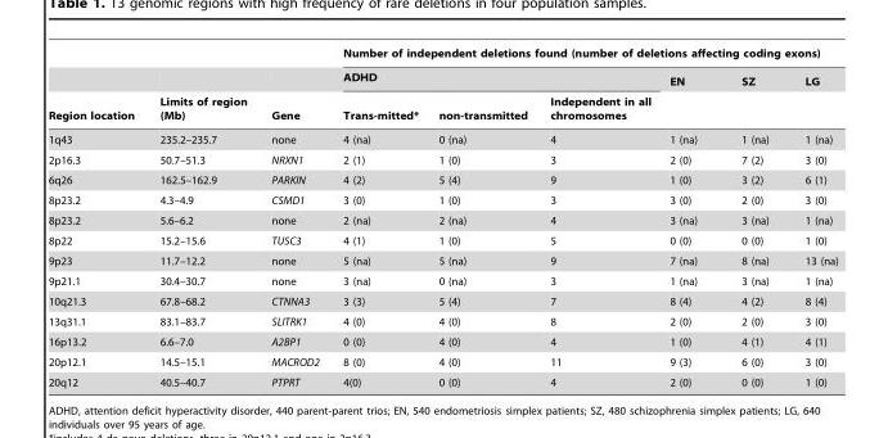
<table><thead><tr><td rowspan="3">Region location</td><td rowspan="3">Limits of region (Mb)</td><td rowspan="3">Gene</td><td colspan="6">Number of independent deletions found (number of deletions affecting coding exons)</td></tr><tr><td colspan="3">ADHD</td><td rowspan="2">EN</td><td rowspan="2">SZ</td><td rowspan="2">LG</td></tr><tr><td>Trans-mitted*</td><td>non-transmitted</td><td>Independent in all chromosomes</td></tr></thead><tbody><tr><td>1q43</td><td>235.2–235.7</td><td>none</td><td>4 (na)</td><td>0 (na)</td><td>4</td><td>1 (na)</td><td>1 (na)</td><td>1 (na)</td></tr><tr><td>2p16.3</td><td>50.7–51.3</td><td>NRXN1</td><td>2 (1)</td><td>1 (0)</td><td>3</td><td>2 (0)</td><td>7 (2)</td><td>3 (0)</td></tr><tr><td>6q26</td><td>162.5–162.9</td><td>PARKIN</td><td>4 (2)</td><td>5 (4)</td><td>9</td><td>1 (0)</td><td>3 (2)</td><td>6 (1)</td></tr><tr><td>8p23.2</td><td>4.3–4.9</td><td>CSMD1</td><td>3 (0)</td><td>1 (0)</td><td>3</td><td>3 (0)</td><td>2 (0)</td><td>3 (0)</td></tr><tr><td>8p23.2</td><td>5.6–6.2</td><td>none</td><td>2 (na)</td><td>2 (na)</td><td>4</td><td>3 (na)</td><td>3 (na)</td><td>1 (na)</td></tr><tr><td>8p22</td><td>15.2–15.6</td><td>TUSC3</td><td>4 (1)</td><td>1 (0)</td><td>5</td><td>0 (0)</td><td>0 (0)</td><td>1 (0)</td></tr><tr><td>9p23</td><td>11.7–12.2</td><td>none</td><td>5 (na)</td><td>5 (na)</td><td>9</td><td>7 (na)</td><td>8 (na)</td><td>13 (na)</td></tr><tr><td>9p21.1</td><td>30.4–30.7</td><td>none</td><td>3 (na)</td><td>0 (na)</td><td>3</td><td>1 (na)</td><td>3 (na)</td><td>1 (na)</td></tr><tr><td>10q21.3</td><td>67.8–68.2</td><td>CTNNA3</td><td>3 (3)</td><td>5 (4)</td><td>7</td><td>8 (4)</td><td>4 (2)</td><td>8 (4)</td></tr><tr><td>13q31.1</td><td>83.1–83.7</td><td>SLITRK1</td><td>4 (0)</td><td>4 (0)</td><td>8</td><td>2 (0)</td><td>2 (0)</td><td>3 (0)</td></tr><tr><td>16p13.2</td><td>6.6–7.0</td><td>A2BP1</td><td>0 (0)</td><td>4 (0)</td><td>4</td><td>1 (0)</td><td>4 (1)</td><td>4 (1)</td></tr><tr><td>20p12.1</td><td>14.5–15.1</td><td>MACROD2</td><td>8 (0)</td><td>4 (0)</td><td>11</td><td>9 (3)</td><td>6 (0)</td><td>3 (0)</td></tr><tr><td>20q12</td><td>40.5–40.7</td><td>PTPRT</td><td>4(0)</td><td>0 (0)</td><td>4</td><td>2 (0)</td><td>0 (0)</td><td>1 (0)</td></tr></tbody></table>